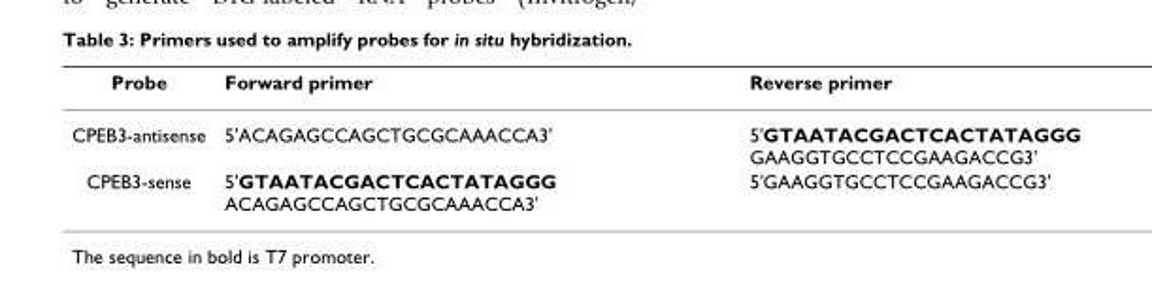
<table><thead><tr><td>Probe</td><td>Forward primer</td><td>Reverse primer</td></tr></thead><tbody><tr><td>CPEB3-antisense</td><td>5&#x27;ACAGAGCCAGCTGCGCAAACCA3&#x27;</td><td>5&#x27;GTAATACGACTCACTATAGGG GAAGGTGCCTCCGAAGACCG3&#x27;</td></tr><tr><td>CPEB3-sense</td><td>5&#x27;GTAATACGACTCACTATAGGG ACAGAGCCAGCTGCGCAAACCA3&#x27;</td><td>5&#x27;GAAGGTGCCTCCGAAGACCG3&#x27;</td></tr></tbody></table>